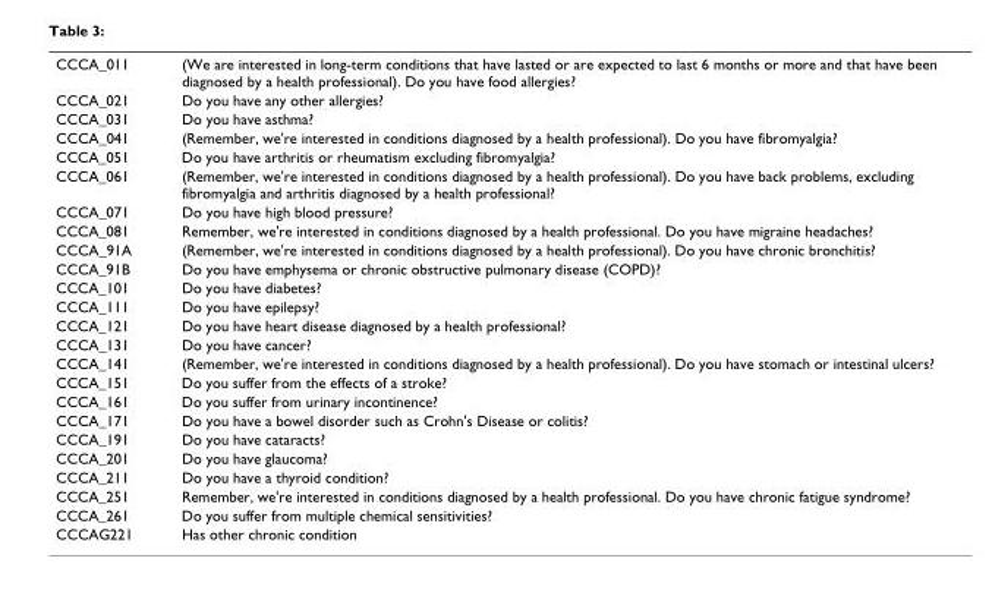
<table><tbody><tr><td>CCCA_011</td><td>(We are interested in long-term conditions that have lasted or are expected to last 6 months or more and that have been diagnosed by a health professional). Do you have food allergies?</td></tr><tr><td>CCCA_021</td><td>Do you have any other allergies?</td></tr><tr><td>CCCA_031</td><td>Do you have asthma?</td></tr><tr><td>CCCA_041</td><td>(Remember, we&#x27;re interested in conditions diagnosed by a health professional). Do you have fibromyalgia?</td></tr><tr><td>CCCA_051</td><td>Do you have arthritis or rheumatism excluding fibromyalgia?</td></tr><tr><td>CCCA_061</td><td>(Remember, we&#x27;re interested in conditions diagnosed by a health professional). Do you have back problems, excluding fibromyalgia and arthritis diagnosed by a health professional?</td></tr><tr><td>CCCA_071</td><td>Do you have high blood pressure?</td></tr><tr><td>CCCA_081</td><td>Remember, we&#x27;re interested in conditions diagnosed by a health professional. Do you have migraine headaches?</td></tr><tr><td>CCCA_91A</td><td>(Remember, we&#x27;re interested in conditions diagnosed by a health professional). Do you have chronic bronchitis?</td></tr><tr><td>CCCA_91B</td><td>Do you have emphysema or chronic obstructive pulmonary disease (COPD)?</td></tr><tr><td>CCCA_101</td><td>Do you have diabetes?</td></tr><tr><td>CCCA_111</td><td>Do you have epilepsy?</td></tr><tr><td>CCCA_121</td><td>Do you have heart disease diagnosed by a health professional?</td></tr><tr><td>CCCA_131</td><td>Do you have cancer?</td></tr><tr><td>CCCA_141</td><td>(Remember, we&#x27;re interested in conditions diagnosed by a health professional). Do you have stomach or intestinal ulcers?</td></tr><tr><td>CCCA_151</td><td>Do you suffer from the effects of a stroke?</td></tr><tr><td>CCCA_161</td><td>Do you suffer from urinary incontinence?</td></tr><tr><td>CCCA_171</td><td>Do you have a bowel disorder such as Crohn&#x27;s Disease or colitis?</td></tr><tr><td>CCCA_191</td><td>Do you have cataracts?</td></tr><tr><td>CCCA_201</td><td>Do you have glaucoma?</td></tr><tr><td>CCCA_211</td><td>Do you have a thyroid condition?</td></tr><tr><td>CCCA_251</td><td>Remember, we&#x27;re interested in conditions diagnosed by a health professional. Do you have chronic fatigue syndrome?</td></tr><tr><td>CCCA_261</td><td>Do you suffer from multiple chemical sensitivities?</td></tr><tr><td>CCCAG221</td><td>Has other chronic condition</td></tr></tbody></table>